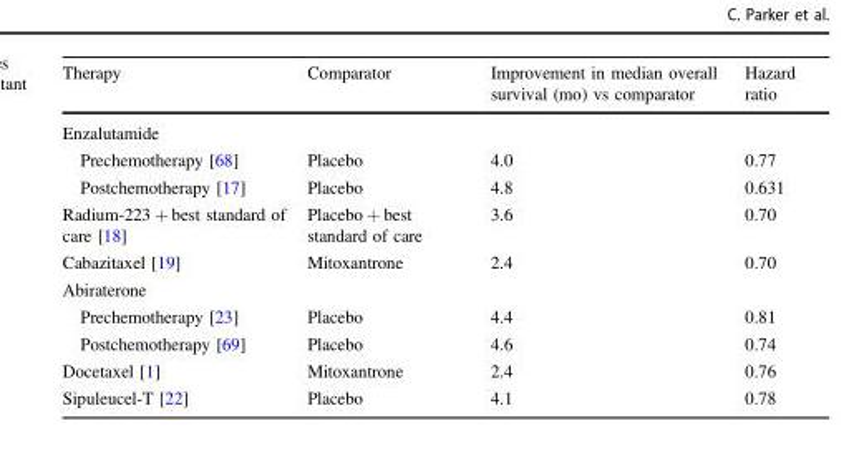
<table><thead><tr><td>Therapy</td><td>Comparator</td><td>Improvement in median overall survival (mo) vs comparator</td><td>Hazard ratio</td></tr></thead><tbody><tr><td colspan="4">Enzalutamide</td></tr><tr><td>Prechemotherapy [68]</td><td>Placebo</td><td>4.0</td><td>0.77</td></tr><tr><td>Postchemotherapy [17]</td><td>Placebo</td><td>4.8</td><td>0.631</td></tr><tr><td>Radium-223 + best standard of care [18]</td><td>Placebo + best standard of care</td><td>3.6</td><td>0.70</td></tr><tr><td>Cabazitaxel [19]</td><td>Mitoxantrone</td><td>2.4</td><td>0.70</td></tr><tr><td colspan="4">Abiraterone</td></tr><tr><td>Prechemotherapy [23]</td><td>Placebo</td><td>4.4</td><td>0.81</td></tr><tr><td>Postchemotherapy [69]</td><td>Placebo</td><td>4.6</td><td>0.74</td></tr><tr><td>Docetaxel [1]</td><td>Mitoxantrone</td><td>2.4</td><td>0.76</td></tr><tr><td>Sipuleucel-T [22]</td><td>Placebo</td><td>4.1</td><td>0.78</td></tr></tbody></table>